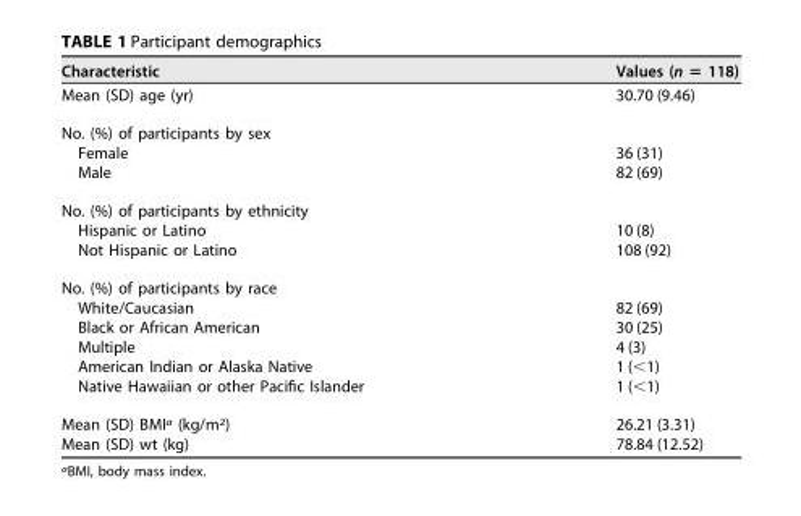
<table><thead><tr><td>Characteristic</td><td>Values (n = 118)</td></tr></thead><tbody><tr><td>Mean (SD) age (yr)</td><td>30.70 (9.46)</td></tr><tr><td colspan="2">No. (%) of participants by sex</td></tr><tr><td>Female</td><td>36 (31)</td></tr><tr><td>Male</td><td>82 (69)</td></tr><tr><td colspan="2">No. (%) of participants by ethnicity</td></tr><tr><td>Hispanic or Latino</td><td>10 (8)</td></tr><tr><td>Not Hispanic or Latino</td><td>108 (92)</td></tr><tr><td colspan="2">No. (%) of participants by race</td></tr><tr><td>White/Caucasian</td><td>82 (69)</td></tr><tr><td>Black or African American</td><td>30 (25)</td></tr><tr><td>Multiple</td><td>4 (3)</td></tr><tr><td>American Indian or Alaska Native</td><td>1 (&lt;1)</td></tr><tr><td>Native Hawaiian or other Pacific Islander</td><td>1 (&lt;1)</td></tr><tr><td>Mean (SD) BMI<sup>a</sup> (kg/m<sup>2</sup>)</td><td>26.21 (3.31)</td></tr><tr><td>Mean (SD) wt (kg)</td><td>78.84 (12.52)</td></tr></tbody></table>